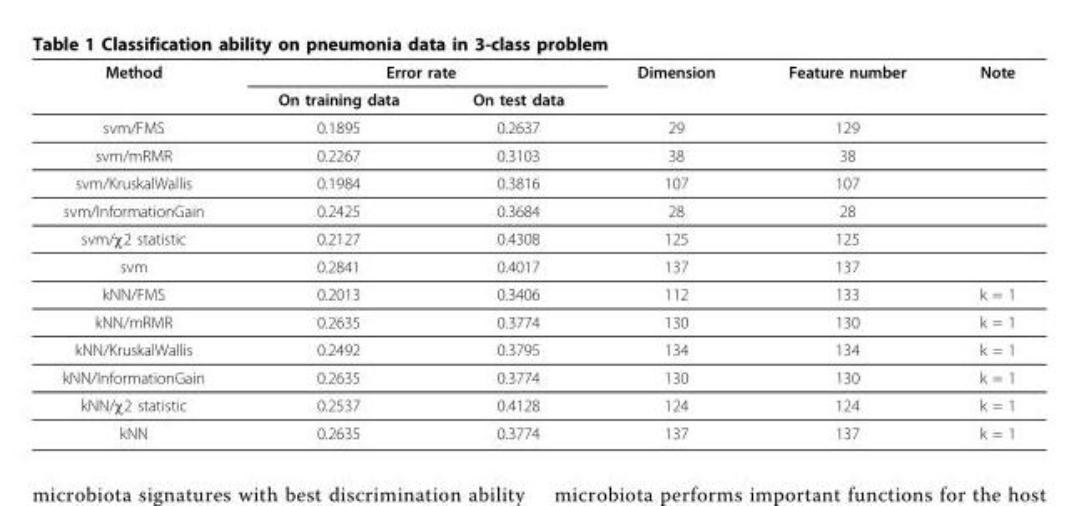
<table><thead><tr><td rowspan="2">Method</td><td colspan="2">Error rate</td><td rowspan="2">Dimension</td><td rowspan="2">Feature number</td><td rowspan="2">Note</td></tr><tr><td>On training data</td><td>On test data</td></tr></thead><tbody><tr><td>svm/FMS</td><td>0.1895</td><td>0.2637</td><td>29</td><td>129</td><td></td></tr><tr><td>svm/mRMR</td><td>0.2267</td><td>0.3103</td><td>38</td><td>38</td><td></td></tr><tr><td>svm/KruskalWallis</td><td>0.1984</td><td>0.3816</td><td>107</td><td>107</td><td></td></tr><tr><td>svm/InformationGain</td><td>0.2425</td><td>0.3684</td><td>28</td><td>28</td><td></td></tr><tr><td>svm/χ2 statistic</td><td>0.2127</td><td>0.4308</td><td>125</td><td>125</td><td></td></tr><tr><td>svm</td><td>0.2841</td><td>0.4017</td><td>137</td><td>137</td><td></td></tr><tr><td>kNN/FMS</td><td>0.2013</td><td>0.3406</td><td>112</td><td>133</td><td>k = 1</td></tr><tr><td>kNN/mRMR</td><td>0.2635</td><td>0.3774</td><td>130</td><td>130</td><td>k = 1</td></tr><tr><td>kNN/KruskalWallis</td><td>0.2492</td><td>0.3795</td><td>134</td><td>134</td><td>k = 1</td></tr><tr><td>kNN/InformationGain</td><td>0.2635</td><td>0.3774</td><td>130</td><td>130</td><td>k = 1</td></tr><tr><td>kNN/χ2 statistic</td><td>0.2537</td><td>0.4128</td><td>124</td><td>124</td><td>k = 1</td></tr><tr><td>kNN</td><td>0.2635</td><td>0.3774</td><td>137</td><td>137</td><td>k = 1</td></tr></tbody></table>